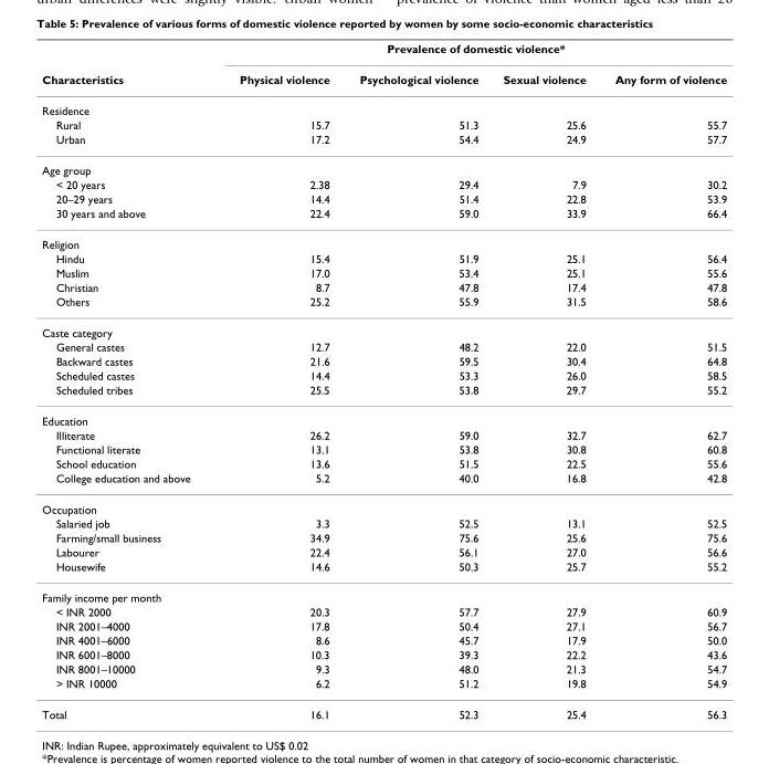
<table><thead><tr><td rowspan="2">Characteristics</td><td colspan="4">Prevalence of domestic violence*</td></tr><tr><td>Physical violence</td><td>Psychological violence</td><td>Sexual violence</td><td>Any form of violence</td></tr></thead><tbody><tr><td colspan="5">Residence</td></tr><tr><td>Rural</td><td>15.7</td><td>51.3</td><td>25.6</td><td>55.7</td></tr><tr><td>Urban</td><td>17.2</td><td>54.4</td><td>24.9</td><td>57.7</td></tr><tr><td colspan="5">Age group</td></tr><tr><td>&lt; 20 years</td><td>2.38</td><td>29.4</td><td>7.9</td><td>30.2</td></tr><tr><td>20–29 years</td><td>14.4</td><td>51.4</td><td>22.8</td><td>53.9</td></tr><tr><td>30 years and above</td><td>22.4</td><td>59.0</td><td>33.9</td><td>66.4</td></tr><tr><td colspan="5">Religion</td></tr><tr><td>Hindu</td><td>15.4</td><td>51.9</td><td>25.1</td><td>56.4</td></tr><tr><td>Muslim</td><td>17.0</td><td>53.4</td><td>25.1</td><td>55.6</td></tr><tr><td>Christian</td><td>8.7</td><td>47.8</td><td>17.4</td><td>47.8</td></tr><tr><td>Others</td><td>25.2</td><td>55.9</td><td>31.5</td><td>58.6</td></tr><tr><td colspan="5">Caste category</td></tr><tr><td>General castes</td><td>12.7</td><td>48.2</td><td>22.0</td><td>51.5</td></tr><tr><td>Backward castes</td><td>21.6</td><td>59.5</td><td>30.4</td><td>64.8</td></tr><tr><td>Scheduled castes</td><td>14.4</td><td>53.3</td><td>26.0</td><td>58.5</td></tr><tr><td>Scheduled tribes</td><td>25.5</td><td>53.8</td><td>29.7</td><td>55.2</td></tr><tr><td colspan="5">Education</td></tr><tr><td>Illiterate</td><td>26.2</td><td>59.0</td><td>32.7</td><td>62.7</td></tr><tr><td>Functional literate</td><td>13.1</td><td>53.8</td><td>30.8</td><td>60.8</td></tr><tr><td>School education</td><td>13.6</td><td>51.5</td><td>22.5</td><td>55.6</td></tr><tr><td>College education and above</td><td>5.2</td><td>40.0</td><td>16.8</td><td>42.8</td></tr><tr><td colspan="5">Occupation</td></tr><tr><td>Salaried job</td><td>3.3</td><td>52.5</td><td>13.1</td><td>52.5</td></tr><tr><td>Farming/small business</td><td>34.9</td><td>75.6</td><td>25.6</td><td>75.6</td></tr><tr><td>Labourer</td><td>22.4</td><td>56.1</td><td>27.0</td><td>56.6</td></tr><tr><td>Housewife</td><td>14.6</td><td>50.3</td><td>25.7</td><td>55.2</td></tr><tr><td colspan="5">Family income per month</td></tr><tr><td>&lt; INR 2000</td><td>20.3</td><td>57.7</td><td>27.9</td><td>60.9</td></tr><tr><td>INR 2001–4000</td><td>17.8</td><td>50.4</td><td>27.1</td><td>56.7</td></tr><tr><td>INR 4001–6000</td><td>8.6</td><td>45.7</td><td>17.9</td><td>50.0</td></tr><tr><td>INR 6001–8000</td><td>10.3</td><td>39.3</td><td>22.2</td><td>43.6</td></tr><tr><td>INR 8001–10000</td><td>9.3</td><td>48.0</td><td>21.3</td><td>54.7</td></tr><tr><td>&gt; INR 10000</td><td>6.2</td><td>51.2</td><td>19.8</td><td>54.9</td></tr><tr><td>Total</td><td>16.1</td><td>52.3</td><td>25.4</td><td>56.3</td></tr></tbody></table>